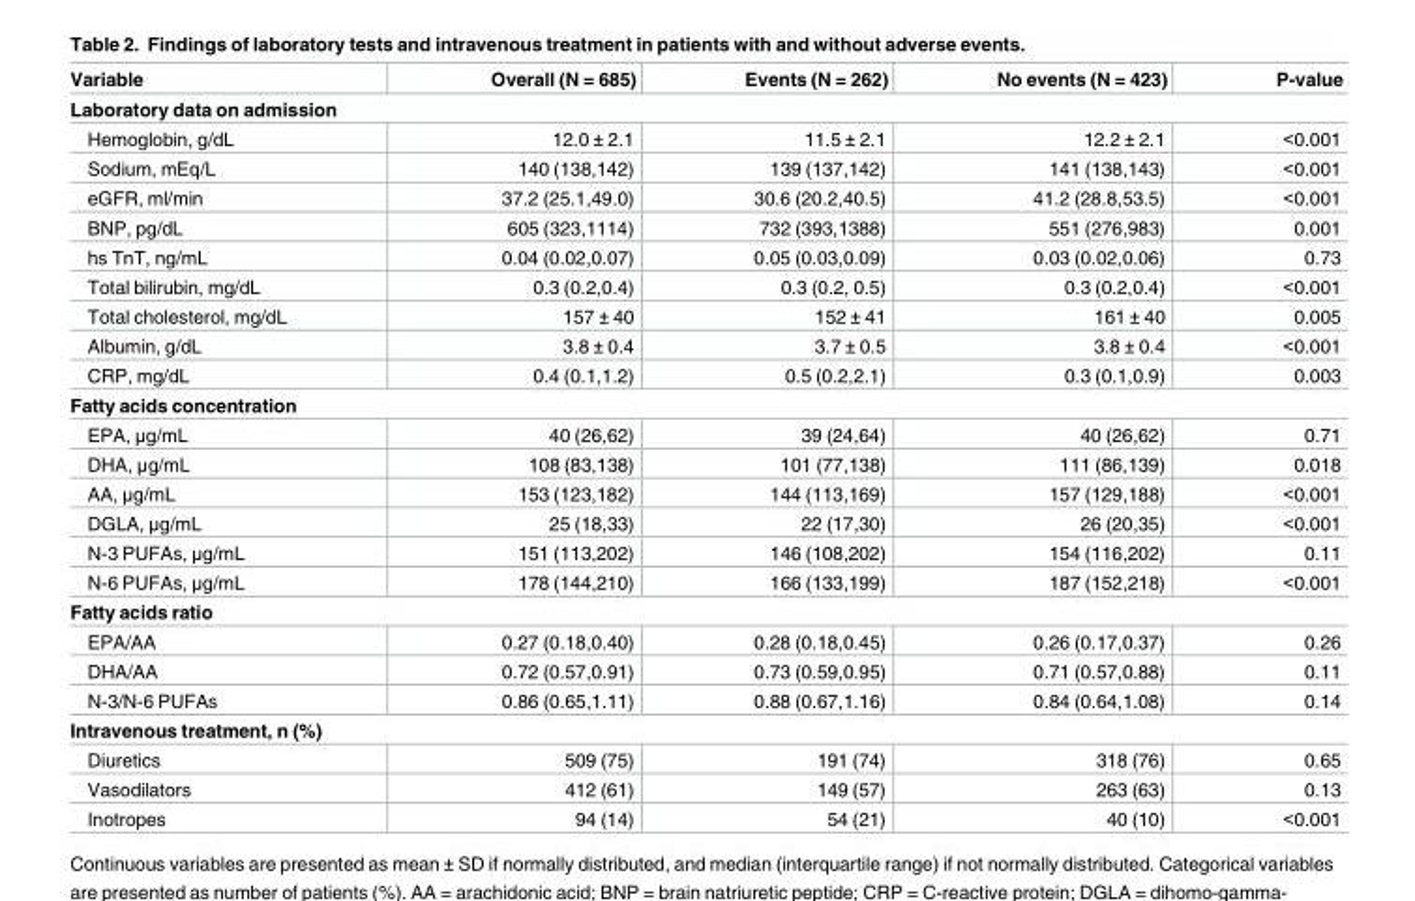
<table><thead><tr><td>Variable</td><td>Overall (N = 685)</td><td>Events (N = 262)</td><td>No events (N = 423)</td><td>P-value</td></tr></thead><tbody><tr><td colspan="5">Laboratory data on admission</td></tr><tr><td>Hemoglobin, g/dL</td><td>12.0 ± 2.1</td><td>11.5 ± 2.1</td><td>12.2 ± 2.1</td><td>&lt;0.001</td></tr><tr><td>Sodium, mEq/L</td><td>140 (138,142)</td><td>139 (137,142)</td><td>141 (138,143)</td><td>&lt;0.001</td></tr><tr><td>eGFR, ml/min</td><td>37.2 (25.1,49.0)</td><td>30.6 (20.2,40.5)</td><td>41.2 (28.8,53.5)</td><td>&lt;0.001</td></tr><tr><td>BNP, pg/dL</td><td>605 (323,1114)</td><td>732 (393,1388)</td><td>551 (276,983)</td><td>0.001</td></tr><tr><td>hs TnT, ng/mL</td><td>0.04 (0.02,0.07)</td><td>0.05 (0.03,0.09)</td><td>0.03 (0.02,0.06)</td><td>0.73</td></tr><tr><td>Total bilirubin, mg/dL</td><td>0.3 (0.2,0.4)</td><td>0.3 (0.2, 0.5)</td><td>0.3 (0.2,0.4)</td><td>&lt;0.001</td></tr><tr><td>Total cholesterol, mg/dL</td><td>157 ± 40</td><td>152 ± 41</td><td>161 ± 40</td><td>0.005</td></tr><tr><td>Albumin, g/dL</td><td>3.8 ± 0.4</td><td>3.7 ± 0.5</td><td>3.8 ± 0.4</td><td>&lt;0.001</td></tr><tr><td>CRP, mg/dL</td><td>0.4 (0.1,1.2)</td><td>0.5 (0.2,2.1)</td><td>0.3 (0.1,0.9)</td><td>0.003</td></tr><tr><td colspan="5">Fatty acids concentration</td></tr><tr><td>EPA, μg/mL</td><td>40 (26,62)</td><td>39 (24,64)</td><td>40 (26,62)</td><td>0.71</td></tr><tr><td>DHA, μg/mL</td><td>108 (83,138)</td><td>101 (77,138)</td><td>111 (86,139)</td><td>0.018</td></tr><tr><td>AA, μg/mL</td><td>153 (123,182)</td><td>144 (113,169)</td><td>157 (129,188)</td><td>&lt;0.001</td></tr><tr><td>DGLA, μg/mL</td><td>25 (18,33)</td><td>22 (17,30)</td><td>26 (20,35)</td><td>&lt;0.001</td></tr><tr><td>N-3 PUFAs, μg/mL</td><td>151 (113,202)</td><td>146 (108,202)</td><td>154 (116,202)</td><td>0.11</td></tr><tr><td>N-6 PUFAs, μg/mL</td><td>178 (144,210)</td><td>166 (133,199)</td><td>187 (152,218)</td><td>&lt;0.001</td></tr><tr><td colspan="5">Fatty acids ratio</td></tr><tr><td>EPA/AA</td><td>0.27 (0.18,0.40)</td><td>0.28 (0.18,0.45)</td><td>0.26 (0.17,0.37)</td><td>0.26</td></tr><tr><td>DHA/AA</td><td>0.72 (0.57,0.91)</td><td>0.73 (0.59,0.95)</td><td>0.71 (0.57,0.88)</td><td>0.11</td></tr><tr><td>N-3/N-6 PUFAs</td><td>0.86 (0.65,1.11)</td><td>0.88 (0.67,1.16)</td><td>0.84 (0.64,1.08)</td><td>0.14</td></tr><tr><td colspan="5">Intravenous treatment, n (%)</td></tr><tr><td>Diuretics</td><td>509 (75)</td><td>191 (74)</td><td>318 (76)</td><td>0.65</td></tr><tr><td>Vasodilators</td><td>412 (61)</td><td>149 (57)</td><td>263 (63)</td><td>0.13</td></tr><tr><td>Inotropes</td><td>94 (14)</td><td>54 (21)</td><td>40 (10)</td><td>&lt;0.001</td></tr></tbody></table>